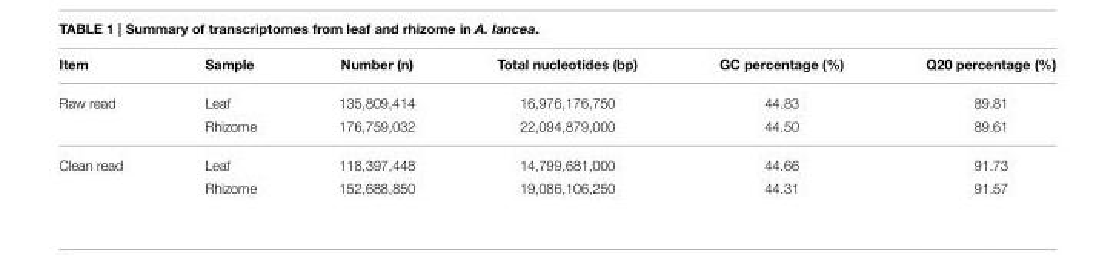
<table><thead><tr><td>Item</td><td>Sample</td><td>Number (n)</td><td>Total nucleotides (bp)</td><td>GC percentage (%)</td><td>Q20 percentage (%)</td></tr></thead><tbody><tr><td rowspan="2">Raw read</td><td>Leaf</td><td>135,809,414</td><td>16,976,176,750</td><td>44.83</td><td>89.81</td></tr><tr><td>Rhizome</td><td>176,759,032</td><td>22,094,879,000</td><td>44.50</td><td>89.61</td></tr><tr><td rowspan="2">Clean read</td><td>Leaf</td><td>118,397,448</td><td>14,799,681,000</td><td>44.66</td><td>91.73</td></tr><tr><td>Rhizome</td><td>152,688,850</td><td>19,086,106,250</td><td>44.31</td><td>91.57</td></tr></tbody></table>